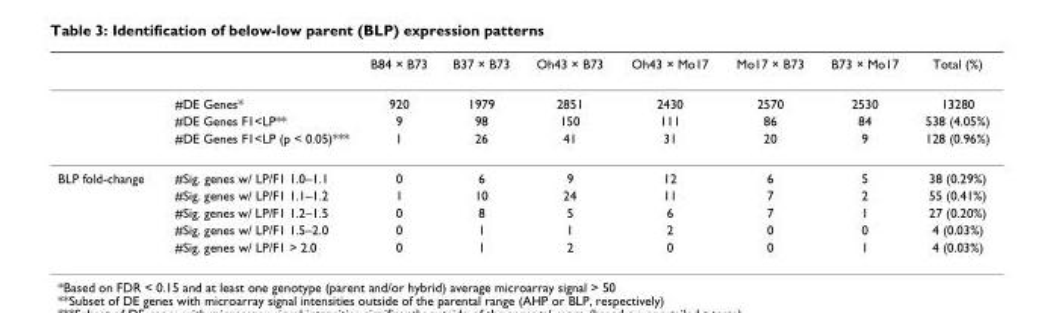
<table><thead><tr><td></td><td></td><td>B84 × B73</td><td>B37 × B73</td><td>Oh43 × B73</td><td>Oh43 × Mo17</td><td>Mo17 × B73</td><td>B73 × Mo17</td><td>Total (%)</td></tr></thead><tbody><tr><td></td><td>#DE Genes*</td><td>920</td><td>1979</td><td>2851</td><td>2430</td><td>2570</td><td>2530</td><td>13280</td></tr><tr><td></td><td>#DE Genes F1&lt;LP**</td><td>9</td><td>98</td><td>150</td><td>111</td><td>86</td><td>84</td><td>538 (4.05%)</td></tr><tr><td></td><td>#DE Genes F1&lt;LP (p &lt; 0.05)***</td><td>1</td><td>26</td><td>41</td><td>31</td><td>20</td><td>9</td><td>128 (0.96%)</td></tr><tr><td rowspan="5">BLP fold-change</td><td>#Sig. genes w/ LP/F1 1.0–1.1</td><td>0</td><td>6</td><td>9</td><td>12</td><td>6</td><td>5</td><td>38 (0.29%)</td></tr><tr><td>#Sig. genes w/ LP/F1 1.1–1.2</td><td>1</td><td>10</td><td>24</td><td>11</td><td>7</td><td>2</td><td>55 (0.41%)</td></tr><tr><td>#Sig. genes w/ LP/F1 1.2–1.5</td><td>0</td><td>8</td><td>5</td><td>6</td><td>7</td><td>1</td><td>27 (0.20%)</td></tr><tr><td>#Sig. genes w/ LP/F1 1.5–2.0</td><td>0</td><td>1</td><td>1</td><td>2</td><td>0</td><td>0</td><td>4 (0.03%)</td></tr><tr><td>#Sig. genes w/ LP/F1 &gt; 2.0</td><td>0</td><td>1</td><td>2</td><td>0</td><td>0</td><td>1</td><td>4 (0.03%)</td></tr></tbody></table>